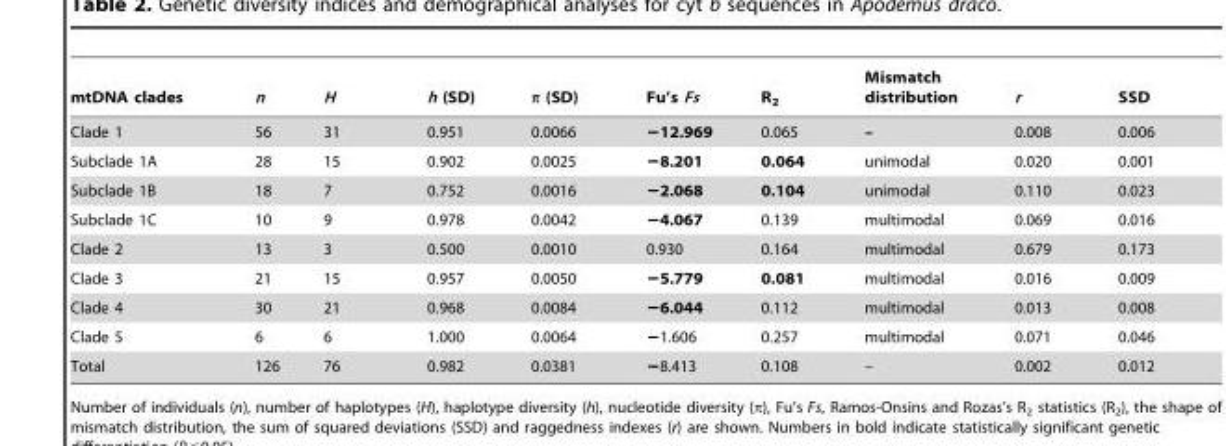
<table><thead><tr><td>mtDNA clades</td><td>n</td><td>H</td><td>h (SD)</td><td>π (SD)</td><td>Fu’s Fs</td><td>R<sub>2</sub></td><td>Mismatch distribution</td><td>r</td><td>SSD</td></tr></thead><tbody><tr><td>Clade 1</td><td>56</td><td>31</td><td>0.951</td><td>0.0066</td><td>−12.969</td><td>0.065</td><td>–</td><td>0.008</td><td>0.006</td></tr><tr><td>Subclade 1A</td><td>28</td><td>15</td><td>0.902</td><td>0.0025</td><td>−8.201</td><td>0.064</td><td>unimodal</td><td>0.020</td><td>0.001</td></tr><tr><td>Subclade 1B</td><td>18</td><td>7</td><td>0.752</td><td>0.0016</td><td>−2.068</td><td>0.104</td><td>unimodal</td><td>0.110</td><td>0.023</td></tr><tr><td>Subclade 1C</td><td>10</td><td>9</td><td>0.978</td><td>0.0042</td><td>−4.067</td><td>0.139</td><td>multimodal</td><td>0.069</td><td>0.016</td></tr><tr><td>Clade 2</td><td>13</td><td>3</td><td>0.500</td><td>0.0010</td><td>0.930</td><td>0.164</td><td>multimodal</td><td>0.679</td><td>0.173</td></tr><tr><td>Clade 3</td><td>21</td><td>15</td><td>0.957</td><td>0.0050</td><td>−5.779</td><td>0.081</td><td>multimodal</td><td>0.016</td><td>0.009</td></tr><tr><td>Clade 4</td><td>30</td><td>21</td><td>0.968</td><td>0.0084</td><td>−6.044</td><td>0.112</td><td>multimodal</td><td>0.013</td><td>0.008</td></tr><tr><td>Clade 5</td><td>6</td><td>6</td><td>1.000</td><td>0.0064</td><td>−1.606</td><td>0.257</td><td>multimodal</td><td>0.071</td><td>0.046</td></tr><tr><td>Total</td><td>126</td><td>76</td><td>0.982</td><td>0.0381</td><td>−8.413</td><td>0.108</td><td>–</td><td>0.002</td><td>0.012</td></tr></tbody></table>